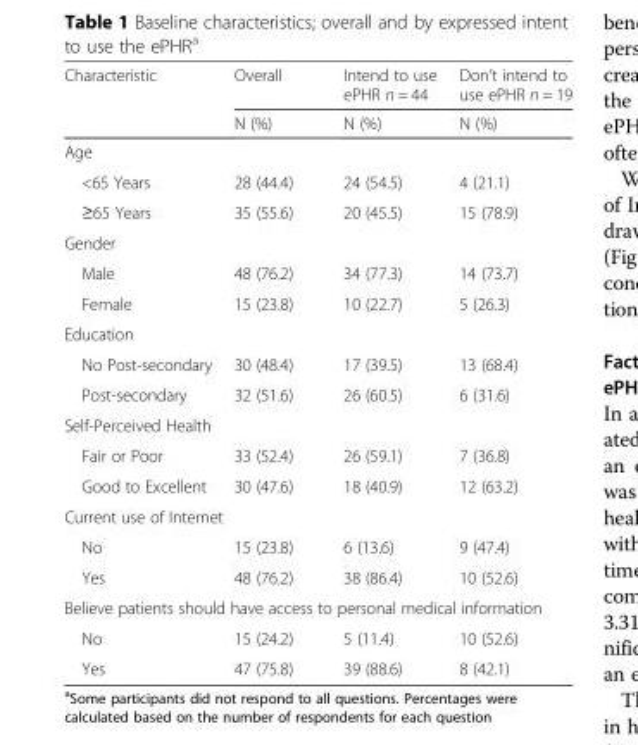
<table><thead><tr><td rowspan="2">Characteristic</td><td rowspan="2">Overall N (%)</td><td rowspan="2">Intend to use ePHR n = 44 N (%)</td><td rowspan="2">Don’t intend to use ePHR n = 19 N (%)</td></tr><tr></tr></thead><tbody><tr><td colspan="4">Age</td></tr><tr><td>&lt;65 Years</td><td>28 (44.4)</td><td>24 (54.5)</td><td>4 (21.1)</td></tr><tr><td>≥65 Years</td><td>35 (55.6)</td><td>20 (45.5)</td><td>15 (78.9)</td></tr><tr><td colspan="4">Gender</td></tr><tr><td>Male</td><td>48 (76.2)</td><td>34 (77.3)</td><td>14 (73.7)</td></tr><tr><td>Female</td><td>15 (23.8)</td><td>10 (22.7)</td><td>5 (26.3)</td></tr><tr><td colspan="4">Education</td></tr><tr><td>No Post-secondary</td><td>30 (48.4)</td><td>17 (39.5)</td><td>13 (68.4)</td></tr><tr><td>Post-secondary</td><td>32 (51.6)</td><td>26 (60.5)</td><td>6 (31.6)</td></tr><tr><td colspan="4">Self-Perceived Health</td></tr><tr><td>Fair or Poor</td><td>33 (52.4)</td><td>26 (59.1)</td><td>7 (36.8)</td></tr><tr><td>Good to Excellent</td><td>30 (47.6)</td><td>18 (40.9)</td><td>12 (63.2)</td></tr><tr><td colspan="4">Current use of Internet</td></tr><tr><td>No</td><td>15 (23.8)</td><td>6 (13.6)</td><td>9 (47.4)</td></tr><tr><td>Yes</td><td>48 (76.2)</td><td>38 (86.4)</td><td>10 (52.6)</td></tr><tr><td colspan="4">Believe patients should have access to personal medical information</td></tr><tr><td>No</td><td>15 (24.2)</td><td>5 (11.4)</td><td>10 (52.6)</td></tr><tr><td>Yes</td><td>47 (75.8)</td><td>39 (88.6)</td><td>8 (42.1)</td></tr></tbody></table>